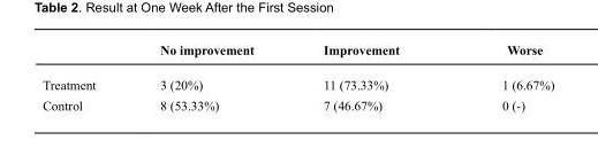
<table><thead><tr><td></td><td>No improvement</td><td>Improvement</td><td>Worse</td></tr></thead><tbody><tr><td>Treatment</td><td>3 (20%)</td><td>11 (73.33%)</td><td>1 (6.67%)</td></tr><tr><td>Control</td><td>8 (53.33%)</td><td>7 (46.67%)</td><td>0 (-)</td></tr></tbody></table>